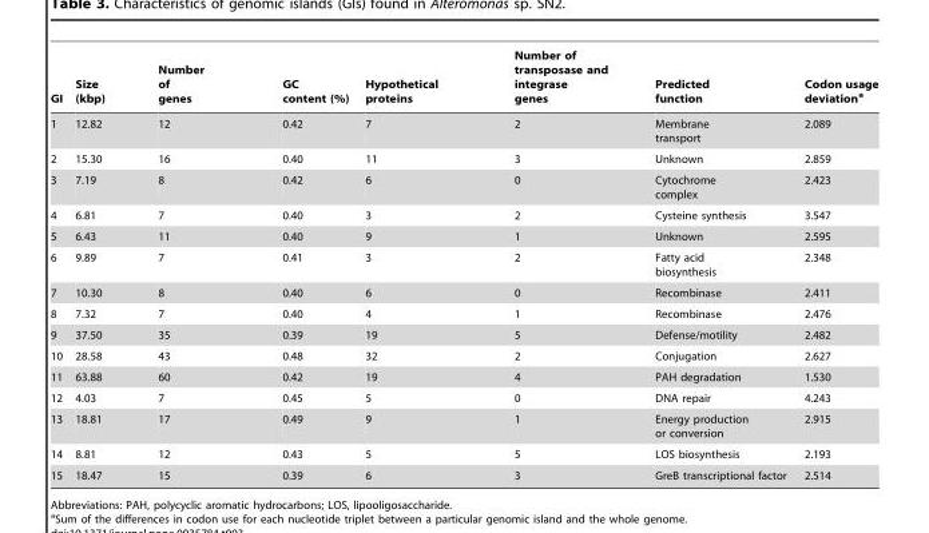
<table><thead><tr><td>GI</td><td>Size (kbp)</td><td>Number of genes</td><td>GC content (%)</td><td>Hypothetical proteins</td><td>Number of transposase and integrase genes</td><td>Predicted function</td><td>Codon usage deviation<sup>a</sup></td></tr></thead><tbody><tr><td>1</td><td>12.82</td><td>12</td><td>0.42</td><td>7</td><td>2</td><td>Membrane transport</td><td>2.089</td></tr><tr><td>2</td><td>15.30</td><td>16</td><td>0.40</td><td>11</td><td>3</td><td>Unknown</td><td>2.859</td></tr><tr><td>3</td><td>7.19</td><td>8</td><td>0.42</td><td>6</td><td>0</td><td>Cytochrome complex</td><td>2.423</td></tr><tr><td>4</td><td>6.81</td><td>7</td><td>0.40</td><td>3</td><td>2</td><td>Cysteine synthesis</td><td>3.547</td></tr><tr><td>5</td><td>6.43</td><td>11</td><td>0.40</td><td>9</td><td>1</td><td>Unknown</td><td>2.595</td></tr><tr><td>6</td><td>9.89</td><td>7</td><td>0.41</td><td>3</td><td>2</td><td>Fatty acid biosynthesis</td><td>2.348</td></tr><tr><td>7</td><td>10.30</td><td>8</td><td>0.40</td><td>6</td><td>0</td><td>Recombinase</td><td>2.411</td></tr><tr><td>8</td><td>7.32</td><td>7</td><td>0.40</td><td>4</td><td>1</td><td>Recombinase</td><td>2.476</td></tr><tr><td>9</td><td>37.50</td><td>35</td><td>0.39</td><td>19</td><td>5</td><td>Defense/motility</td><td>2.482</td></tr><tr><td>10</td><td>28.58</td><td>43</td><td>0.48</td><td>32</td><td>2</td><td>Conjugation</td><td>2.627</td></tr><tr><td>11</td><td>63.88</td><td>60</td><td>0.42</td><td>19</td><td>4</td><td>PAH degradation</td><td>1.530</td></tr><tr><td>12</td><td>4.03</td><td>7</td><td>0.45</td><td>5</td><td>0</td><td>DNA repair</td><td>4.243</td></tr><tr><td>13</td><td>18.81</td><td>17</td><td>0.49</td><td>9</td><td>1</td><td>Energy production or conversion</td><td>2.915</td></tr><tr><td>14</td><td>8.81</td><td>12</td><td>0.43</td><td>5</td><td>5</td><td>LOS biosynthesis</td><td>2.193</td></tr><tr><td>15</td><td>18.47</td><td>15</td><td>0.39</td><td>6</td><td>3</td><td>GreB transcriptional factor</td><td>2.514</td></tr></tbody></table>